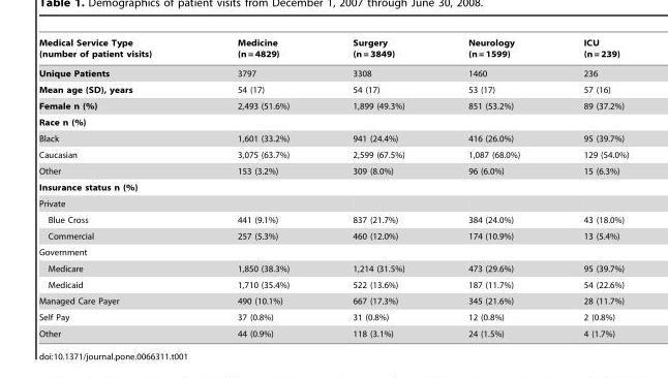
<table><thead><tr><td>Medical Service Type (number of patient visits)</td><td>Medicine (n = 4829)</td><td>Surgery (n = 3849)</td><td>Neurology (n = 1599)</td><td>ICU (n = 239)</td></tr></thead><tbody><tr><td>Unique Patients</td><td>3797</td><td>3308</td><td>1460</td><td>236</td></tr><tr><td>Mean age (SD), years</td><td>54 (17)</td><td>54 (17)</td><td>53 (17)</td><td>57 (16)</td></tr><tr><td>Female n (%)</td><td>2,493 (51.6%)</td><td>1,899 (49.3%)</td><td>851 (53.2%)</td><td>89 (37.2%)</td></tr><tr><td colspan="5">Race n (%)</td></tr><tr><td>Black</td><td>1,601 (33.2%)</td><td>941 (24.4%)</td><td>416 (26.0%)</td><td>95 (39.7%)</td></tr><tr><td>Caucasian</td><td>3,075 (63.7%)</td><td>2,599 (67.5%)</td><td>1,087 (68.0%)</td><td>129 (54.0%)</td></tr><tr><td>Other</td><td>153 (3.2%)</td><td>309 (8.0%)</td><td>96 (6.0%)</td><td>15 (6.3%)</td></tr><tr><td colspan="5">Insurance status n (%)</td></tr><tr><td colspan="5">Private</td></tr><tr><td>Blue Cross</td><td>441 (9.1%)</td><td>837 (21.7%)</td><td>384 (24.0%)</td><td>43 (18.0%)</td></tr><tr><td>Commercial</td><td>257 (5.3%)</td><td>460 (12.0%)</td><td>174 (10.9%)</td><td>13 (5.4%)</td></tr><tr><td colspan="5">Government</td></tr><tr><td>Medicare</td><td>1,850 (38.3%)</td><td>1,214 (31.5%)</td><td>473 (29.6%)</td><td>95 (39.7%)</td></tr><tr><td>Medicaid</td><td>1,710 (35.4%)</td><td>522 (13.6%)</td><td>187 (11.7%)</td><td>54 (22.6%)</td></tr><tr><td>Managed Care Payer</td><td>490 (10.1%)</td><td>667 (17.3%)</td><td>345 (21.6%)</td><td>28 (11.7%)</td></tr><tr><td>Self Pay</td><td>37 (0.8%)</td><td>31 (0.8%)</td><td>12 (0.8%)</td><td>2 (0.8%)</td></tr><tr><td>Other</td><td>44 (0.9%)</td><td>118 (3.1%)</td><td>24 (1.5%)</td><td>4 (1.7%)</td></tr></tbody></table>